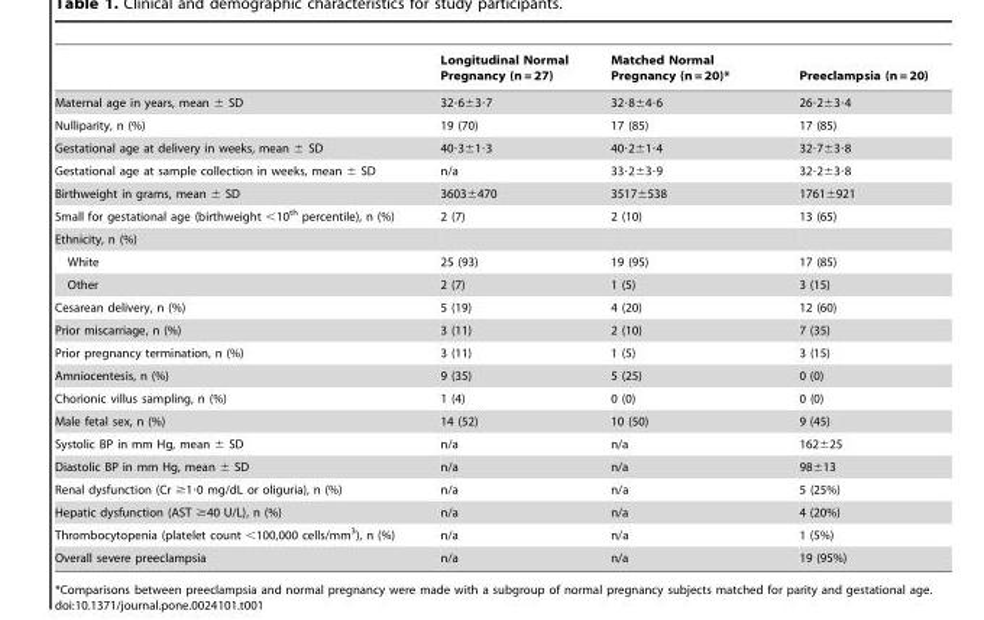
<table><thead><tr><td></td><td>Longitudinal Normal Pregnancy (n = 27)</td><td>Matched Normal Pregnancy (n = 20)*</td><td>Preeclampsia (n = 20)</td></tr></thead><tbody><tr><td>Maternal age in years, mean ± SD</td><td>32·6±3·7</td><td>32·8±4·6</td><td>26·2±3·4</td></tr><tr><td>Nulliparity, n (%)</td><td>19 (70)</td><td>17 (85)</td><td>17 (85)</td></tr><tr><td>Gestational age at delivery in weeks, mean ± SD</td><td>40·3±1·3</td><td>40·2±1·4</td><td>32·7±3·8</td></tr><tr><td>Gestational age at sample collection in weeks, mean ± SD</td><td>n/a</td><td>33·2±3·9</td><td>32·2±3·8</td></tr><tr><td>Birthweight in grams, mean ± SD</td><td>3603±470</td><td>3517±538</td><td>1761±921</td></tr><tr><td>Small for gestational age (birthweight &lt;10<sup>th</sup> percentile), n (%)</td><td>2 (7)</td><td>2 (10)</td><td>13 (65)</td></tr><tr><td colspan="4">Ethnicity, n (%)</td></tr><tr><td>White</td><td>25 (93)</td><td>19 (95)</td><td>17 (85)</td></tr><tr><td>Other</td><td>2 (7)</td><td>1 (5)</td><td>3 (15)</td></tr><tr><td>Cesarean delivery, n (%)</td><td>5 (19)</td><td>4 (20)</td><td>12 (60)</td></tr><tr><td>Prior miscarriage, n (%)</td><td>3 (11)</td><td>2 (10)</td><td>7 (35)</td></tr><tr><td>Prior pregnancy termination, n (%)</td><td>3 (11)</td><td>1 (5)</td><td>3 (15)</td></tr><tr><td>Amniocentesis, n (%)</td><td>9 (35)</td><td>5 (25)</td><td>0 (0)</td></tr><tr><td>Chorionic villus sampling, n (%)</td><td>1 (4)</td><td>0 (0)</td><td>0 (0)</td></tr><tr><td>Male fetal sex, n (%)</td><td>14 (52)</td><td>10 (50)</td><td>9 (45)</td></tr><tr><td>Systolic BP in mm Hg, mean ± SD</td><td>n/a</td><td>n/a</td><td>162±25</td></tr><tr><td>Diastolic BP in mm Hg, mean ± SD</td><td>n/a</td><td>n/a</td><td>98±13</td></tr><tr><td>Renal dysfunction (Cr ≥1·0 mg/dL or oliguria), n (%)</td><td>n/a</td><td>n/a</td><td>5 (25%)</td></tr><tr><td>Hepatic dysfunction (AST ≥40 U/L), n (%)</td><td>n/a</td><td>n/a</td><td>4 (20%)</td></tr><tr><td>Thrombocytopenia (platelet count &lt;100,000 cells/mm<sup>3</sup>), n (%)</td><td>n/a</td><td>n/a</td><td>1 (5%)</td></tr><tr><td>Overall severe preeclampsia</td><td>n/a</td><td>n/a</td><td>19 (95%)</td></tr></tbody></table>